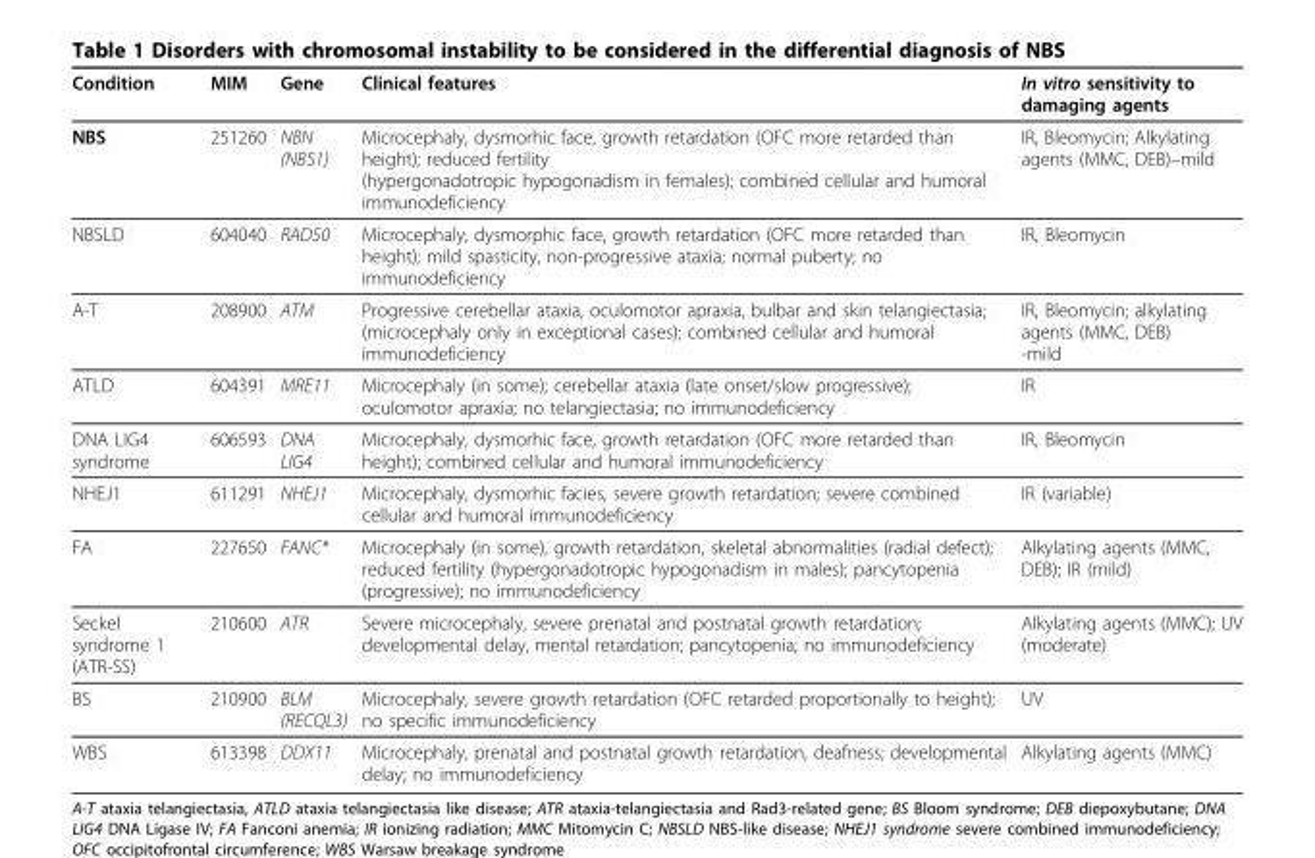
<table><thead><tr><td>Condition</td><td>MIM</td><td>Gene</td><td>Clinical features</td><td>In vitro sensitivity to damaging agents</td></tr></thead><tbody><tr><td>NBS</td><td>251260</td><td>NBN (NBS1)</td><td>Microcephaly, dysmorhic face, growth retardation (OFC more retarded than height); reduced fertility (hypergonadotropic hypogonadism in females); combined cellular and humoral immunodeficiency</td><td>IR, Bleomycin; Alkylating agents (MMC, DEB)–mild</td></tr><tr><td>NBSLD</td><td>604040</td><td>RAD50</td><td>Microcephaly, dysmorphic face, growth retardation (OFC more retarded than height); mild spasticity, non-progressive ataxia; normal puberty; no immunodeficiency</td><td>IR, Bleomycin</td></tr><tr><td>A-T</td><td>208900</td><td>ATM</td><td>Progressive cerebellar ataxia, oculomotor apraxia, bulbar and skin telangiectasia; (microcephaly only in exceptional cases); combined cellular and humoral immunodeficiency</td><td>IR, Bleomycin; alkylating agents (MMC, DEB) -mild</td></tr><tr><td>ATLD</td><td>604391</td><td>MRE11</td><td>Microcephaly (in some); cerebellar ataxia (late onset/slow progressive); oculomotor apraxia; no telangiectasia; no immunodeficiency</td><td>IR</td></tr><tr><td>DNA LIG4 syndrome</td><td>606593</td><td>DNA LIG4</td><td>Microcephaly, dysmorhic face, growth retardation (OFC more retarded than height); combined cellular and humoral immunodeficiency</td><td>IR, Bleomycin</td></tr><tr><td>NHEJ1</td><td>611291</td><td>NHEJ1</td><td>Microcephaly, dysmorhic facies, severe growth retardation; severe combined cellular and humoral immunodeficiency</td><td>IR (variable)</td></tr><tr><td>FA</td><td>227650</td><td>FANC*</td><td>Microcephaly (in some), growth retardation, skeletal abnormalities (radial defect); reduced fertility (hypergonadotropic hypogonadism in males); pancytopenia (progressive); no immunodeficiency</td><td>Alkylating agents (MMC, DEB); IR (mild)</td></tr><tr><td>Seckel syndrome 1 (ATR-SS)</td><td>210600</td><td>ATR</td><td>Severe microcephaly, severe prenatal and postnatal growth retardation; developmental delay, mental retardation; pancytopenia; no immunodeficiency</td><td>Alkylating agents (MMC); UV (moderate)</td></tr><tr><td>BS</td><td>210900</td><td>BLM (RECQL3)</td><td>Microcephaly, severe growth retardation (OFC retarded proportionally to height); no specific immunodeficiency</td><td>UV</td></tr><tr><td>WBS</td><td>613398</td><td>DDX11</td><td>Microcephaly, prenatal and postnatal growth retardation, deafness; developmental delay; no immunodeficiency</td><td>Alkylating agents (MMC)</td></tr></tbody></table>